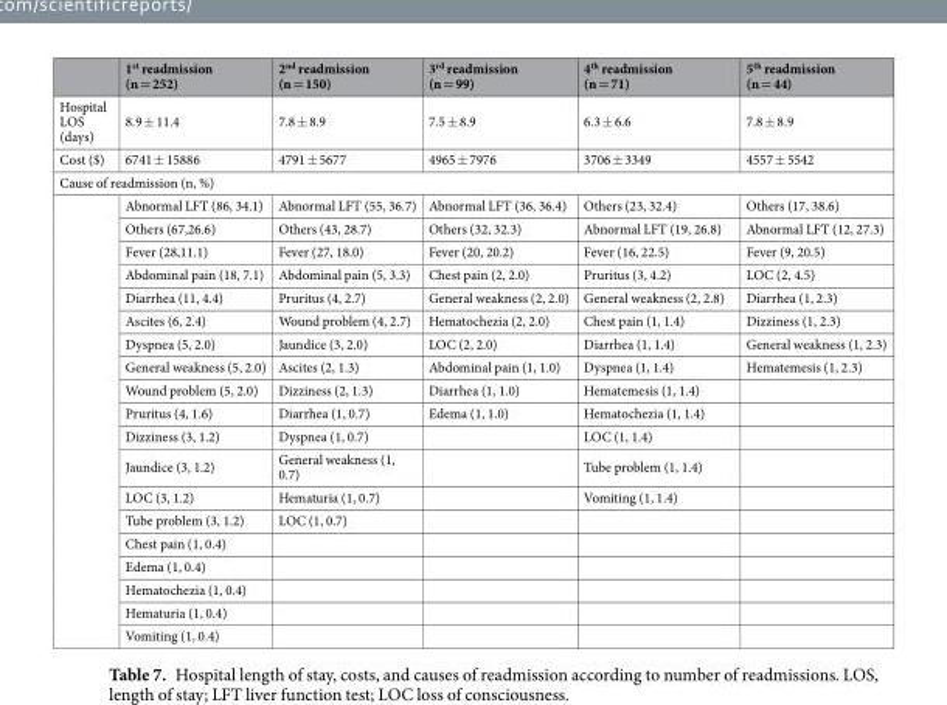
<table><thead><tr><td></td><td>1<sup>st</sup> readmission (n = 252)</td><td>2<sup>nd</sup> readmission (n = 150)</td><td>3<sup>rd</sup> readmission (n = 99)</td><td>4<sup>th</sup> readmission (n = 71)</td><td>5<sup>th</sup> readmission (n = 44)</td></tr></thead><tbody><tr><td>Hospital LOS (days)</td><td>8.9 ± 11.4</td><td>7.8 ± 8.9</td><td>7.5 ± 8.9</td><td>6.3 ± 6.6</td><td>7.8 ± 8.9</td></tr><tr><td>Cost ($)</td><td>6741 ± 15886</td><td>4791 ± 5677</td><td>4965 ± 7976</td><td>3706 ± 3349</td><td>4557 ± 5542</td></tr><tr><td colspan="6">Cause of readmission (n, %)</td></tr><tr><td rowspan="19"></td><td>Abnormal LFT (86, 34.1)</td><td>Abnormal LFT (55, 36.7)</td><td>Abnormal LFT (36, 36.4)</td><td>Others (23, 32.4)</td><td>Others (17, 38.6)</td></tr><tr><td>Others (67,26.6)</td><td>Others (43, 28.7)</td><td>Others (32, 32.3)</td><td>Abnormal LFT (19, 26.8)</td><td>Abnormal LFT (12, 27.3)</td></tr><tr><td>Fever (28,11.1)</td><td>Fever (27, 18.0)</td><td>Fever (20, 20.2)</td><td>Fever (16, 22.5)</td><td>Fever (9, 20.5)</td></tr><tr><td>Abdominal pain (18, 7.1)</td><td>Abdominal pain (5, 3.3)</td><td>Chest pain (2, 2.0)</td><td>Pruritus (3, 4.2)</td><td>LOC (2, 4.5)</td></tr><tr><td>Diarrhea (11, 4.4)</td><td>Pruritus (4, 2.7)</td><td>General weakness (2, 2.0)</td><td>General weakness (2, 2.8)</td><td>Diarrhea (1, 2.3)</td></tr><tr><td>Ascites (6, 2.4)</td><td>Wound problem (4, 2.7)</td><td>Hematochezia (2, 2.0)</td><td>Chest pain (1, 1.4)</td><td>Dizziness (1, 2.3)</td></tr><tr><td>Dyspnea (5, 2.0)</td><td>Jaundice (3, 2.0)</td><td>LOC (2, 2.0)</td><td>Diarrhea (1, 1.4)</td><td>General weakness (1, 2.3)</td></tr><tr><td>General weakness (5, 2.0)</td><td>Ascites (2, 1.3)</td><td>Abdominal pain (1, 1.0)</td><td>Dyspnea (1, 1.4)</td><td>Hematemesis (1, 2.3)</td></tr><tr><td>Wound problem (5, 2.0)</td><td>Dizziness (2, 1.3)</td><td>Diarrhea (1, 1.0)</td><td>Hematemesis (1, 1.4)</td><td></td></tr><tr><td>Pruritus (4, 1.6)</td><td>Diarrhea (1, 0.7)</td><td>Edema (1, 1.0)</td><td>Hematochezia (1, 1.4)</td><td></td></tr><tr><td>Dizziness (3, 1.2)</td><td>Dyspnea (1, 0.7)</td><td></td><td>LOC (1, 1.4)</td><td></td></tr><tr><td>Jaundice (3, 1.2)</td><td>General weakness (1, 0.7)</td><td></td><td>Tube problem (1, 1.4)</td><td></td></tr><tr><td>LOC (3, 1.2)</td><td>Hematuria (1, 0.7)</td><td></td><td>Vomiting (1, 1.4)</td><td></td></tr><tr><td>Tube problem (3, 1.2)</td><td>LOC (1, 0.7)</td><td></td><td></td><td></td></tr><tr><td>Chest pain (1, 0.4)</td><td></td><td></td><td></td><td></td></tr><tr><td>Edema (1, 0.4)</td><td></td><td></td><td></td><td></td></tr><tr><td>Hematochezia (1, 0.4)</td><td></td><td></td><td></td><td></td></tr><tr><td>Hematuria (1, 0.4)</td><td></td><td></td><td></td><td></td></tr><tr><td>Vomiting (1, 0.4)</td><td></td><td></td><td></td><td></td></tr></tbody></table>